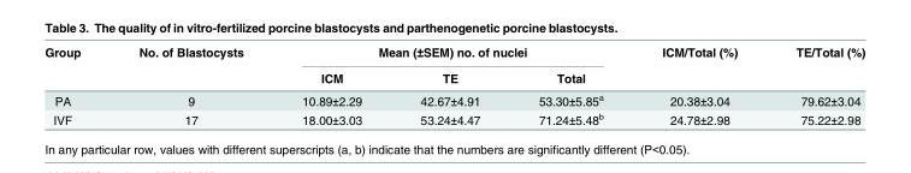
<table><thead><tr><td rowspan="2">Group</td><td rowspan="2">No. of Blastocysts</td><td colspan="3">Mean (±SEM) no. of nuclei</td><td rowspan="2">ICM/Total (%)</td><td rowspan="2">TE/Total (%)</td></tr><tr><td>ICM</td><td>TE</td><td>Total</td></tr></thead><tbody><tr><td>PA</td><td>9</td><td>10.89±2.29</td><td>42.67±4.91</td><td>53.30±5.85<sup>a</sup></td><td>20.38±3.04</td><td>79.62±3.04</td></tr><tr><td>IVF</td><td>17</td><td>18.00±3.03</td><td>53.24±4.47</td><td>71.24±5.48<sup>b</sup></td><td>24.78±2.98</td><td>75.22±2.98</td></tr></tbody></table>